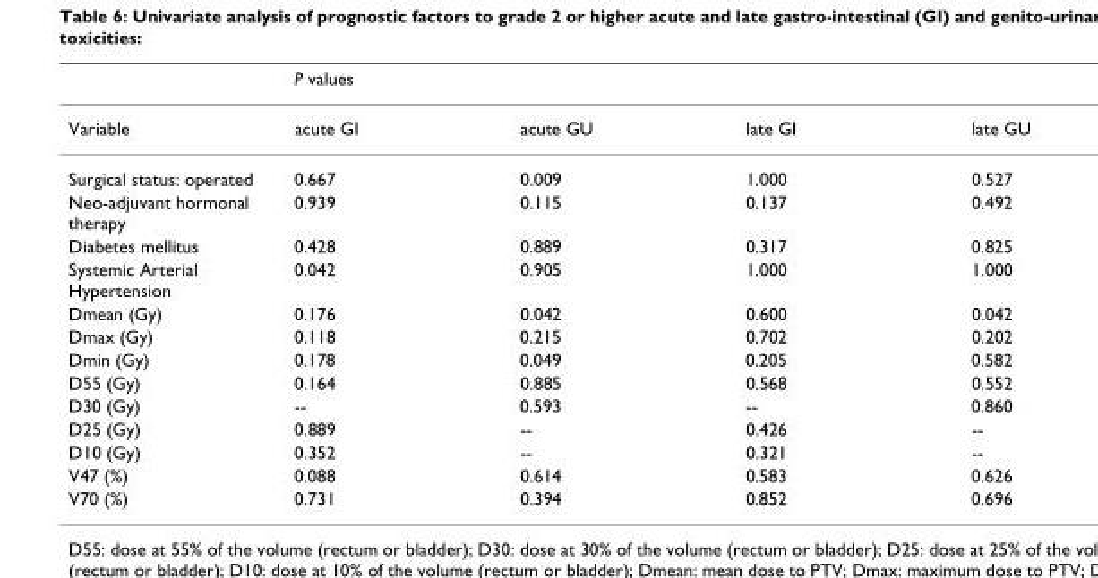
<table><thead><tr><td rowspan="2">Variable</td><td colspan="4">P values</td></tr><tr><td>acute GI</td><td>acute GU</td><td>late GI</td><td>late GU</td></tr></thead><tbody><tr><td>Surgical status: operated</td><td>0.667</td><td>0.009</td><td>1.000</td><td>0.527</td></tr><tr><td>Neo-adjuvant hormonal therapy</td><td>0.939</td><td>0.115</td><td>0.137</td><td>0.492</td></tr><tr><td>Diabetes mellitus</td><td>0.428</td><td>0.889</td><td>0.317</td><td>0.825</td></tr><tr><td>Systemic Arterial Hypertension</td><td>0.042</td><td>0.905</td><td>1.000</td><td>1.000</td></tr><tr><td>Dmean (Gy)</td><td>0.176</td><td>0.042</td><td>0.600</td><td>0.042</td></tr><tr><td>Dmax (Gy)</td><td>0.118</td><td>0.215</td><td>0.702</td><td>0.202</td></tr><tr><td>Dmin (Gy)</td><td>0.178</td><td>0.049</td><td>0.205</td><td>0.582</td></tr><tr><td>D55 (Gy)</td><td>0.164</td><td>0.885</td><td>0.568</td><td>0.552</td></tr><tr><td>D30 (Gy)</td><td>--</td><td>0.593</td><td>--</td><td>0.860</td></tr><tr><td>D25 (Gy)</td><td>0.889</td><td>--</td><td>0.426</td><td>--</td></tr><tr><td>D10 (Gy)</td><td>0.352</td><td>--</td><td>0.321</td><td>--</td></tr><tr><td>V47 (%)</td><td>0.088</td><td>0.614</td><td>0.583</td><td>0.626</td></tr><tr><td>V70 (%)</td><td>0.731</td><td>0.394</td><td>0.852</td><td>0.696</td></tr></tbody></table>